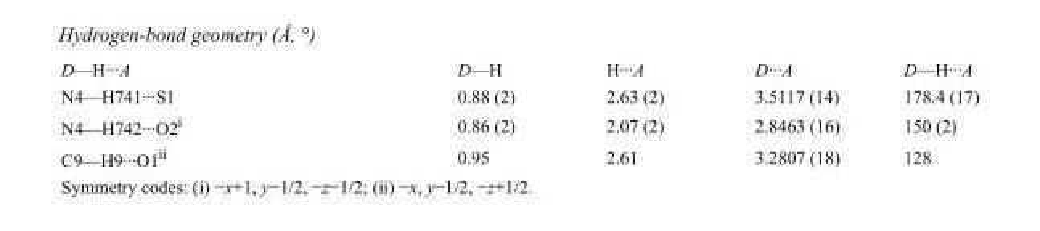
<table><tbody><tr><td>D—H···A</td><td>D—H</td><td>H···A</td><td>D···A</td><td>D—H···A</td></tr><tr><td>N4—H741···S1</td><td>0.88 (2)</td><td>2.63 (2)</td><td>3.5117 (14)</td><td>178.4 (17)</td></tr><tr><td>N4—H742···O2<sup>i</sup></td><td>0.86 (2)</td><td>2.07 (2)</td><td>2.8463 (16)</td><td>150 (2)</td></tr><tr><td>C9—H9···O1<sup>ii</sup></td><td>0.95</td><td>2.61</td><td>3.2807 (18)</td><td>128</td></tr></tbody></table>